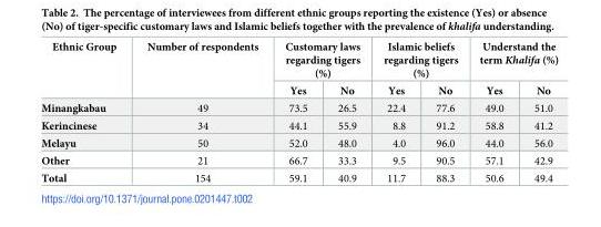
<table><thead><tr><td rowspan="2">Ethnic Group</td><td rowspan="2">Number of respondents</td><td colspan="2">Customary laws regarding tigers (%)</td><td colspan="2">Islamic beliefs regarding tigers (%)</td><td colspan="2">Understand the term Khalifa (%)</td></tr><tr><td>Yes</td><td>No</td><td>Yes</td><td>No</td><td>Yes</td><td>No</td></tr></thead><tbody><tr><td>Minangkabau</td><td>49</td><td>73.5</td><td>26.5</td><td>22.4</td><td>77.6</td><td>49.0</td><td>51.0</td></tr><tr><td>Kerincinese</td><td>34</td><td>44.1</td><td>55.9</td><td>8.8</td><td>91.2</td><td>58.8</td><td>41.2</td></tr><tr><td>Melayu</td><td>50</td><td>52.0</td><td>48.0</td><td>4.0</td><td>96.0</td><td>44.0</td><td>56.0</td></tr><tr><td>Other</td><td>21</td><td>66.7</td><td>33.3</td><td>9.5</td><td>90.5</td><td>57.1</td><td>42.9</td></tr><tr><td>Total</td><td>154</td><td>59.1</td><td>40.9</td><td>11.7</td><td>88.3</td><td>50.6</td><td>49.4</td></tr></tbody></table>